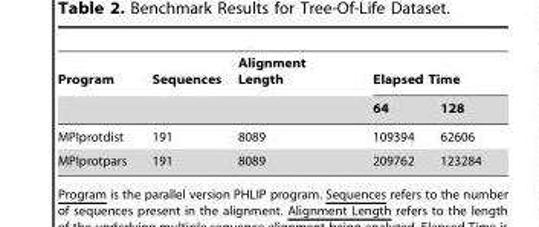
<table><thead><tr><td rowspan="2">Program</td><td rowspan="2">Sequences</td><td rowspan="2">Alignment Length</td><td colspan="2">Elapsed Time</td></tr><tr><td>64</td><td>128</td></tr></thead><tbody><tr><td>MPIprotdist</td><td>191</td><td>8089</td><td>109394</td><td>62606</td></tr><tr><td>MPIprotpars</td><td>191</td><td>8089</td><td>209762</td><td>123284</td></tr></tbody></table>